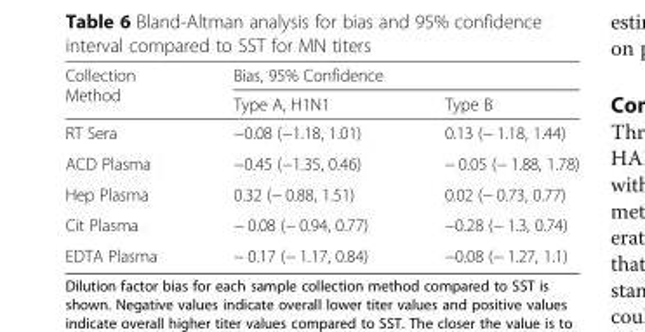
<table><thead><tr><td rowspan="2">Collection Method</td><td colspan="2">Bias, 95% Confidence</td></tr><tr><td>Type A, H1N1</td><td>Type B</td></tr></thead><tbody><tr><td>RT Sera</td><td>−0.08 (−1.18, 1.01)</td><td>0.13 (− 1.18, 1.44)</td></tr><tr><td>ACD Plasma</td><td>−0.45 (−1.35, 0.46)</td><td>− 0.05 (− 1.88, 1.78)</td></tr><tr><td>Hep Plasma</td><td>0.32 (− 0.88, 1.51)</td><td>0.02 (− 0.73, 0.77)</td></tr><tr><td>Cit Plasma</td><td>− 0.08 (− 0.94, 0.77)</td><td>−0.28 (− 1.3, 0.74)</td></tr><tr><td>EDTA Plasma</td><td>− 0.17 (− 1.17, 0.84)</td><td>−0.08 (− 1.27, 1.1)</td></tr></tbody></table>